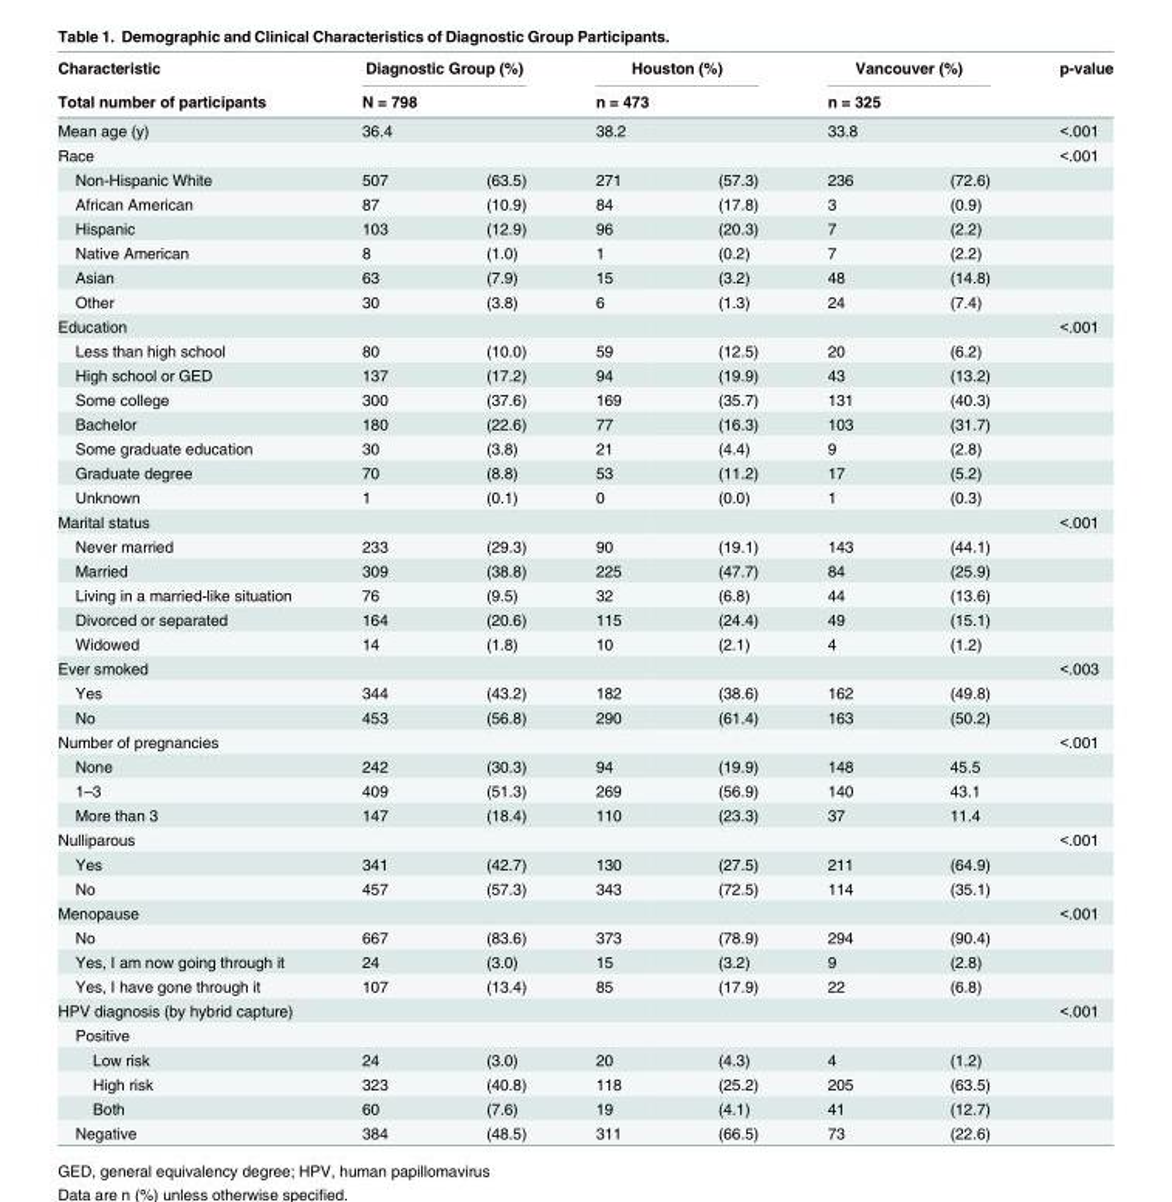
<table><thead><tr><td rowspan="2">Characteristic Total number of participants</td><td colspan="2">Diagnostic Group (%)</td><td colspan="2">Houston (%)</td><td colspan="2">Vancouver (%)</td><td rowspan="2">p-value</td></tr><tr><td>N = 798</td><td></td><td>n = 473</td><td></td><td>n = 325</td><td></td></tr></thead><tbody><tr><td>Mean age (y)</td><td>36.4</td><td></td><td>38.2</td><td></td><td>33.8</td><td></td><td>&lt;.001</td></tr><tr><td>Race</td><td></td><td></td><td></td><td></td><td></td><td></td><td>&lt;.001</td></tr><tr><td>Non-Hispanic White</td><td>507</td><td>(63.5)</td><td>271</td><td>(57.3)</td><td>236</td><td>(72.6)</td><td></td></tr><tr><td>African American</td><td>87</td><td>(10.9)</td><td>84</td><td>(17.8)</td><td>3</td><td>(0.9)</td><td></td></tr><tr><td>Hispanic</td><td>103</td><td>(12.9)</td><td>96</td><td>(20.3)</td><td>7</td><td>(2.2)</td><td></td></tr><tr><td>Native American</td><td>8</td><td>(1.0)</td><td>1</td><td>(0.2)</td><td>7</td><td>(2.2)</td><td></td></tr><tr><td>Asian</td><td>63</td><td>(7.9)</td><td>15</td><td>(3.2)</td><td>48</td><td>(14.8)</td><td></td></tr><tr><td>Other</td><td>30</td><td>(3.8)</td><td>6</td><td>(1.3)</td><td>24</td><td>(7.4)</td><td></td></tr><tr><td>Education</td><td></td><td></td><td></td><td></td><td></td><td></td><td>&lt;.001</td></tr><tr><td>Less than high school</td><td>80</td><td>(10.0)</td><td>59</td><td>(12.5)</td><td>20</td><td>(6.2)</td><td></td></tr><tr><td>High school or GED</td><td>137</td><td>(17.2)</td><td>94</td><td>(19.9)</td><td>43</td><td>(13.2)</td><td></td></tr><tr><td>Some college</td><td>300</td><td>(37.6)</td><td>169</td><td>(35.7)</td><td>131</td><td>(40.3)</td><td></td></tr><tr><td>Bachelor</td><td>180</td><td>(22.6)</td><td>77</td><td>(16.3)</td><td>103</td><td>(31.7)</td><td></td></tr><tr><td>Some graduate education</td><td>30</td><td>(3.8)</td><td>21</td><td>(4.4)</td><td>9</td><td>(2.8)</td><td></td></tr><tr><td>Graduate degree</td><td>70</td><td>(8.8)</td><td>53</td><td>(11.2)</td><td>17</td><td>(5.2)</td><td></td></tr><tr><td>Unknown</td><td>1</td><td>(0.1)</td><td>0</td><td>(0.0)</td><td>1</td><td>(0.3)</td><td></td></tr><tr><td>Marital status</td><td></td><td></td><td></td><td></td><td></td><td></td><td>&lt;.001</td></tr><tr><td>Never married</td><td>233</td><td>(29.3)</td><td>90</td><td>(19.1)</td><td>143</td><td>(44.1)</td><td></td></tr><tr><td>Married</td><td>309</td><td>(38.8)</td><td>225</td><td>(47.7)</td><td>84</td><td>(25.9)</td><td></td></tr><tr><td>Living in a married-like situation</td><td>76</td><td>(9.5)</td><td>32</td><td>(6.8)</td><td>44</td><td>(13.6)</td><td></td></tr><tr><td>Divorced or separated</td><td>164</td><td>(20.6)</td><td>115</td><td>(24.4)</td><td>49</td><td>(15.1)</td><td></td></tr><tr><td>Widowed</td><td>14</td><td>(1.8)</td><td>10</td><td>(2.1)</td><td>4</td><td>(1.2)</td><td></td></tr><tr><td>Ever smoked</td><td></td><td></td><td></td><td></td><td></td><td></td><td>&lt;.003</td></tr><tr><td>Yes</td><td>344</td><td>(43.2)</td><td>182</td><td>(38.6)</td><td>162</td><td>(49.8)</td><td></td></tr><tr><td>No</td><td>453</td><td>(56.8)</td><td>290</td><td>(61.4)</td><td>163</td><td>(50.2)</td><td></td></tr><tr><td>Number of pregnancies</td><td></td><td></td><td></td><td></td><td></td><td></td><td>&lt;.001</td></tr><tr><td>None</td><td>242</td><td>(30.3)</td><td>94</td><td>(19.9)</td><td>148</td><td>45.5</td><td></td></tr><tr><td>1–3</td><td>409</td><td>(51.3)</td><td>269</td><td>(56.9)</td><td>140</td><td>43.1</td><td></td></tr><tr><td>More than 3</td><td>147</td><td>(18.4)</td><td>110</td><td>(23.3)</td><td>37</td><td>11.4</td><td></td></tr><tr><td>Nulliparous</td><td></td><td></td><td></td><td></td><td></td><td></td><td>&lt;.001</td></tr><tr><td>Yes</td><td>341</td><td>(42.7)</td><td>130</td><td>(27.5)</td><td>211</td><td>(64.9)</td><td></td></tr><tr><td>No</td><td>457</td><td>(57.3)</td><td>343</td><td>(72.5)</td><td>114</td><td>(35.1)</td><td></td></tr><tr><td>Menopause</td><td></td><td></td><td></td><td></td><td></td><td></td><td>&lt;.001</td></tr><tr><td>No</td><td>667</td><td>(83.6)</td><td>373</td><td>(78.9)</td><td>294</td><td>(90.4)</td><td></td></tr><tr><td>Yes, I am now going through it</td><td>24</td><td>(3.0)</td><td>15</td><td>(3.2)</td><td>9</td><td>(2.8)</td><td></td></tr><tr><td>Yes, I have gone through it</td><td>107</td><td>(13.4)</td><td>85</td><td>(17.9)</td><td>22</td><td>(6.8)</td><td></td></tr><tr><td>HPV diagnosis (by hybrid capture)</td><td></td><td></td><td></td><td></td><td></td><td></td><td>&lt;.001</td></tr><tr><td colspan="8">Positive</td></tr><tr><td>Low risk</td><td>24</td><td>(3.0)</td><td>20</td><td>(4.3)</td><td>4</td><td>(1.2)</td><td></td></tr><tr><td>High risk</td><td>323</td><td>(40.8)</td><td>118</td><td>(25.2)</td><td>205</td><td>(63.5)</td><td></td></tr><tr><td>Both</td><td>60</td><td>(7.6)</td><td>19</td><td>(4.1)</td><td>41</td><td>(12.7)</td><td></td></tr><tr><td>Negative</td><td>384</td><td>(48.5)</td><td>311</td><td>(66.5)</td><td>73</td><td>(22.6)</td><td></td></tr></tbody></table>